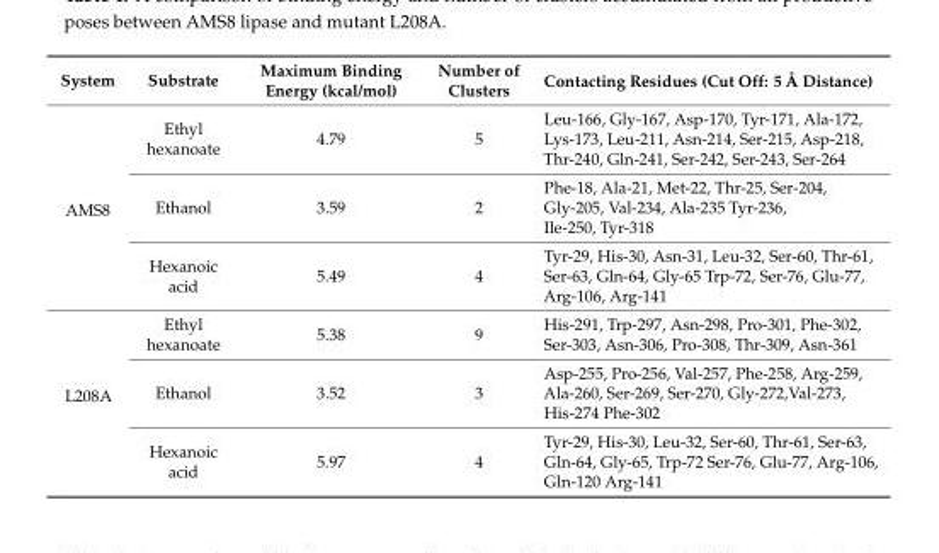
<table><thead><tr><td>System</td><td>Substrate</td><td>Maximum Binding Energy (kcal/mol)</td><td>Number of Clusters</td><td>Contacting Residues (Cut Off: 5 Å Distance)</td></tr></thead><tbody><tr><td rowspan="3">AMS8</td><td>Ethyl hexanoate</td><td>4.79</td><td>5</td><td>Leu-166, Gly-167, Asp-170, Tyr-171, Ala-172, Lys-173, Leu-211, Asn-214, Ser-215, Asp-218, Thr-240, Gln-241, Ser-242, Ser-243, Ser-264</td></tr><tr><td>Ethanol</td><td>3.59</td><td>2</td><td>Phe-18, Ala-21, Met-22, Thr-25, Ser-204, Gly-205, Val-234, Ala-235 Tyr-236, Ile-250, Tyr-318</td></tr><tr><td>Hexanoic acid</td><td>5.49</td><td>4</td><td>Tyr-29, His-30, Asn-31, Leu-32, Ser-60, Thr-61, Ser-63, Gln-64, Gly-65 Trp-72, Ser-76, Glu-77, Arg-106, Arg-141</td></tr><tr><td rowspan="3">L208A</td><td>Ethyl hexanoate</td><td>5.38</td><td>9</td><td>His-291, Trp-297, Asn-298, Pro-301, Phe-302, Ser-303, Asn-306, Pro-308, Thr-309, Asn-361</td></tr><tr><td>Ethanol</td><td>3.52</td><td>3</td><td>Asp-255, Pro-256, Val-257, Phe-258, Arg-259, Ala-260, Ser-269, Ser-270, Gly-272,Val-273, His-274 Phe-302</td></tr><tr><td>Hexanoic acid</td><td>5.97</td><td>4</td><td>Tyr-29, His-30, Leu-32, Ser-60, Thr-61, Ser-63, Gln-64, Gly-65, Trp-72 Ser-76, Glu-77, Arg-106, Gln-120 Arg-141</td></tr></tbody></table>